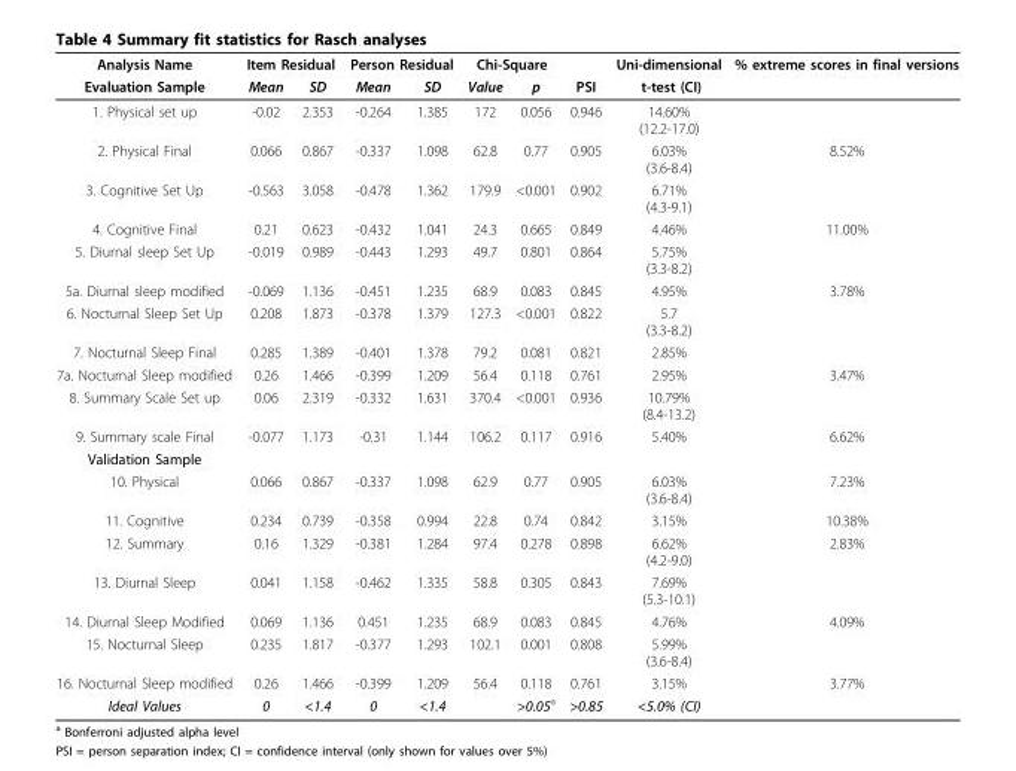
<table><thead><tr><td rowspan="2">Analysis Name Evaluation Sample</td><td colspan="2">Item Residual</td><td colspan="2">Person Residual</td><td colspan="2">Chi-Square</td><td rowspan="2">PSI</td><td rowspan="2">Uni-dimensional t-test (CI)</td><td rowspan="2">% extreme scores in final versions</td></tr><tr><td>Mean</td><td>SD</td><td>Mean</td><td>SD</td><td>Value</td><td>p</td></tr></thead><tbody><tr><td>1. Physical set up</td><td>-0.02</td><td>2.353</td><td>-0.264</td><td>1.385</td><td>172</td><td>0.056</td><td>0.946</td><td>14.60% (12.2-17.0)</td><td></td></tr><tr><td>2. Physical Final</td><td>0.066</td><td>0.867</td><td>-0.337</td><td>1.098</td><td>62.8</td><td>0.77</td><td>0.905</td><td>6.03% (3.6-8.4)</td><td>8.52%</td></tr><tr><td>3. Cognitive Set Up</td><td>-0.563</td><td>3.058</td><td>-0.478</td><td>1.362</td><td>179.9</td><td>&lt;0.001</td><td>0.902</td><td>6.71% (4.3-9.1)</td><td></td></tr><tr><td>4. Cognitive Final</td><td>0.21</td><td>0.623</td><td>-0.432</td><td>1.041</td><td>24.3</td><td>0.665</td><td>0.849</td><td>4.46%</td><td>11.00%</td></tr><tr><td>5. Diurnal sleep Set Up</td><td>-0.019</td><td>0.989</td><td>-0.443</td><td>1.293</td><td>49.7</td><td>0.801</td><td>0.864</td><td>5.75% (3.3-8.2)</td><td></td></tr><tr><td>5a. Diurnal sleep modified</td><td>-0.069</td><td>1.136</td><td>-0.451</td><td>1.235</td><td>68.9</td><td>0.083</td><td>0.845</td><td>4.95%</td><td>3.78%</td></tr><tr><td>6. Nocturnal Sleep Set Up</td><td>0.208</td><td>1.873</td><td>-0.378</td><td>1.379</td><td>127.3</td><td>&lt;0.001</td><td>0.822</td><td>5.7 (3.3-8.2)</td><td></td></tr><tr><td>7. Nocturnal Sleep Final</td><td>0.285</td><td>1.389</td><td>-0.401</td><td>1.378</td><td>79.2</td><td>0.081</td><td>0.821</td><td>2.85%</td><td></td></tr><tr><td>7a. Nocturnal Sleep modified</td><td>0.26</td><td>1.466</td><td>-0.399</td><td>1.209</td><td>56.4</td><td>0.118</td><td>0.761</td><td>2.95%</td><td>3.47%</td></tr><tr><td>8. Summary Scale Set up</td><td>0.06</td><td>2.319</td><td>-0.332</td><td>1.631</td><td>370.4</td><td>&lt;0.001</td><td>0.936</td><td>10.79% (8.4-13.2)</td><td></td></tr><tr><td>9. Summary scale Final</td><td>-0.077</td><td>1.173</td><td>-0.31</td><td>1.144</td><td>106.2</td><td>0.117</td><td>0.916</td><td>5.40%</td><td>6.62%</td></tr><tr><td colspan="10">Validation Sample</td></tr><tr><td>10. Physical</td><td>0.066</td><td>0.867</td><td>-0.337</td><td>1.098</td><td>62.9</td><td>0.77</td><td>0.905</td><td>6.03% (3.6-8.4)</td><td>7.23%</td></tr><tr><td>11. Cognitive</td><td>0.234</td><td>0.739</td><td>-0.358</td><td>0.994</td><td>22.8</td><td>0.74</td><td>0.842</td><td>3.15%</td><td>10.38%</td></tr><tr><td>12. Summary</td><td>0.16</td><td>1.329</td><td>-0.381</td><td>1.284</td><td>97.4</td><td>0.278</td><td>0.898</td><td>6.62% (4.2-9.0)</td><td>2.83%</td></tr><tr><td>13. Diurnal Sleep</td><td>0.041</td><td>1.158</td><td>-0.462</td><td>1.335</td><td>58.8</td><td>0.305</td><td>0.843</td><td>7.69% (5.3-10.1)</td><td></td></tr><tr><td>14. Diurnal Sleep Modified</td><td>0.069</td><td>1.136</td><td>0.451</td><td>1.235</td><td>68.9</td><td>0.083</td><td>0.845</td><td>4.76%</td><td>4.09%</td></tr><tr><td>15. Nocturnal Sleep</td><td>0.235</td><td>1.817</td><td>-0.377</td><td>1.293</td><td>102.1</td><td>0.001</td><td>0.808</td><td>5.99% (3.6-8.4)</td><td></td></tr><tr><td>16. Nocturnal Sleep modified</td><td>0.26</td><td>1.466</td><td>-0.399</td><td>1.209</td><td>56.4</td><td>0.118</td><td>0.761</td><td>3.15%</td><td>3.77%</td></tr><tr><td>Ideal Values</td><td>0</td><td>&lt;1.4</td><td>0</td><td>&lt;1.4</td><td></td><td>&gt;0.05<sup>a</sup></td><td>&gt;0.85</td><td>&lt;5.0% (CI)</td><td></td></tr></tbody></table>